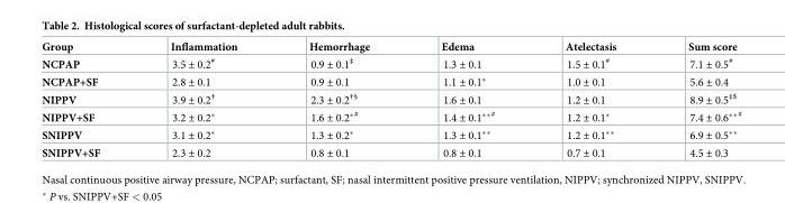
<table><thead><tr><td>Group</td><td>Inflammation</td><td>Hemorrhage</td><td>Edema</td><td>Atelectasis</td><td>Sum score</td></tr></thead><tbody><tr><td>NCPAP</td><td>3.5 ± 0.2<sup>#</sup></td><td>0.9 ± 0.1<sup>‡</sup></td><td>1.3 ± 0.1</td><td>1.5 ± 0.1<sup>#</sup></td><td>7.1 ± 0.5<sup>#</sup></td></tr><tr><td>NCPAP+SF</td><td>2.8 ± 0.1</td><td>0.9 ± 0.1</td><td>1.1 ± 0.1*</td><td>1.0 ± 0.1</td><td>5.6 ± 0.4</td></tr><tr><td>NIPPV</td><td>3.9 ± 0.2<sup>†</sup></td><td>2.3 ± 0.2<sup>†§</sup></td><td>1.6 ± 0.1</td><td>1.2 ± 0.1</td><td>8.9 ± 0.5<sup>‡$</sup></td></tr><tr><td>NIPPV+SF</td><td>3.2 ± 0.2*</td><td>1.6 ± 0.2*<sup>#</sup></td><td>1.4 ± 0.1**<sup>#</sup></td><td>1.2 ± 0.1*</td><td>7.4 ± 0.6**<sup>#</sup></td></tr><tr><td>SNIPPV</td><td>3.1 ± 0.2*</td><td>1.3 ± 0.2*</td><td>1.3 ± 0.1**</td><td>1.2 ± 0.1**</td><td>6.9 ± 0.5**</td></tr><tr><td>SNIPPV+SF</td><td>2.3 ± 0.2</td><td>0.8 ± 0.1</td><td>0.8 ± 0.1</td><td>0.7 ± 0.1</td><td>4.5 ± 0.3</td></tr></tbody></table>